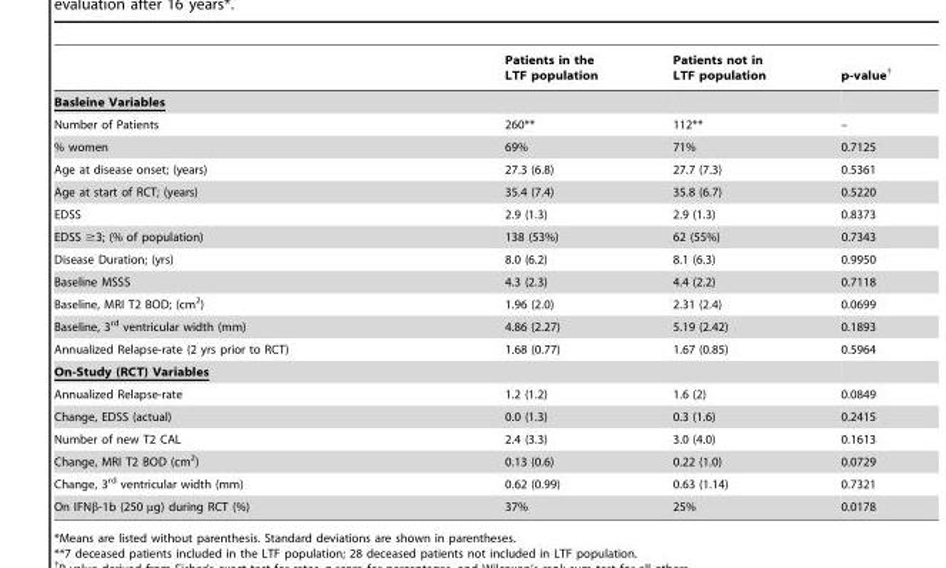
<table><thead><tr><td></td><td>Patients in the LTF population</td><td>Patients not in LTF population</td><td>p-value†</td></tr></thead><tbody><tr><td colspan="4">Basleine Variables</td></tr><tr><td>Number of Patients</td><td>260**</td><td>112**</td><td>–</td></tr><tr><td>% women</td><td>69%</td><td>71%</td><td>0.7125</td></tr><tr><td>Age at disease onset; (years)</td><td>27.3 (6.8)</td><td>27.7 (7.3)</td><td>0.5361</td></tr><tr><td>Age at start of RCT; (years)</td><td>35.4 (7.4)</td><td>35.8 (6.7)</td><td>0.5220</td></tr><tr><td>EDSS</td><td>2.9 (1.3)</td><td>2.9 (1.3)</td><td>0.8373</td></tr><tr><td>EDSS ≥3; (% of population)</td><td>138 (53%)</td><td>62 (55%)</td><td>0.7343</td></tr><tr><td>Disease Duration; (yrs)</td><td>8.0 (6.2)</td><td>8.1 (6.3)</td><td>0.9950</td></tr><tr><td>Baseline MSSS</td><td>4.3 (2.3)</td><td>4.4 (2.2)</td><td>0.7118</td></tr><tr><td>Baseline, MRI T2 BOD; (cm<sup>2</sup>)</td><td>1.96 (2.0)</td><td>2.31 (2.4)</td><td>0.0699</td></tr><tr><td>Baseline, 3<sup>rd</sup> ventricular width (mm)</td><td>4.86 (2.27)</td><td>5.19 (2.42)</td><td>0.1893</td></tr><tr><td>Annualized Relapse-rate (2 yrs prior to RCT)</td><td>1.68 (0.77)</td><td>1.67 (0.85)</td><td>0.5964</td></tr><tr><td colspan="4">On-Study (RCT) Variables</td></tr><tr><td>Annualized Relapse-rate</td><td>1.2 (1.2)</td><td>1.6 (2)</td><td>0.0849</td></tr><tr><td>Change, EDSS (actual)</td><td>0.0 (1.3)</td><td>0.3 (1.6)</td><td>0.2415</td></tr><tr><td>Number of new T2 CAL</td><td>2.4 (3.3)</td><td>3.0 (4.0)</td><td>0.1613</td></tr><tr><td>Change, MRI T2 BOD (cm<sup>2</sup>)</td><td>0.13 (0.6)</td><td>0.22 (1.0)</td><td>0.0729</td></tr><tr><td>Change, 3<sup>rd</sup> ventricular width (mm)</td><td>0.62 (0.99)</td><td>0.63 (1.14)</td><td>0.7321</td></tr><tr><td>On IFNβ-1b (250 µg) during RCT (%)</td><td>37%</td><td>25%</td><td>0.0178</td></tr></tbody></table>